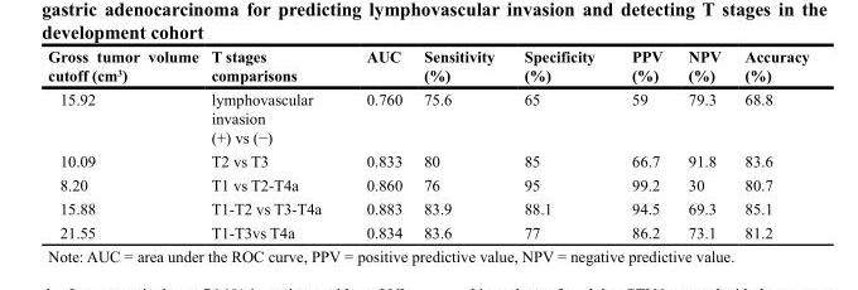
<table><thead><tr><td>Gross tumor volume cutoff (cm<sup>3</sup>)</td><td>T stages comparisons</td><td>AUC</td><td>Sensitivity (%)</td><td>Specificity (%)</td><td>PPV (%)</td><td>NPV (%)</td><td>Accuracy (%)</td></tr></thead><tbody><tr><td>15.92</td><td>lymphovascular invasion (+) vs (−)</td><td>0.760</td><td>75.6</td><td>65</td><td>59</td><td>79.3</td><td>68.8</td></tr><tr><td>10.09</td><td>T2 vs T3</td><td>0.833</td><td>80</td><td>85</td><td>66.7</td><td>91.8</td><td>83.6</td></tr><tr><td>8.20</td><td>T1 vs T2-T4a</td><td>0.860</td><td>76</td><td>95</td><td>99.2</td><td>30</td><td>80.7</td></tr><tr><td>15.88</td><td>T1-T2 vs T3-T4a</td><td>0.883</td><td>83.9</td><td>88.1</td><td>94.5</td><td>69.3</td><td>85.1</td></tr><tr><td>21.55</td><td>T1-T3vs T4a</td><td>0.834</td><td>83.6</td><td>77</td><td>86.2</td><td>73.1</td><td>81.2</td></tr></tbody></table>